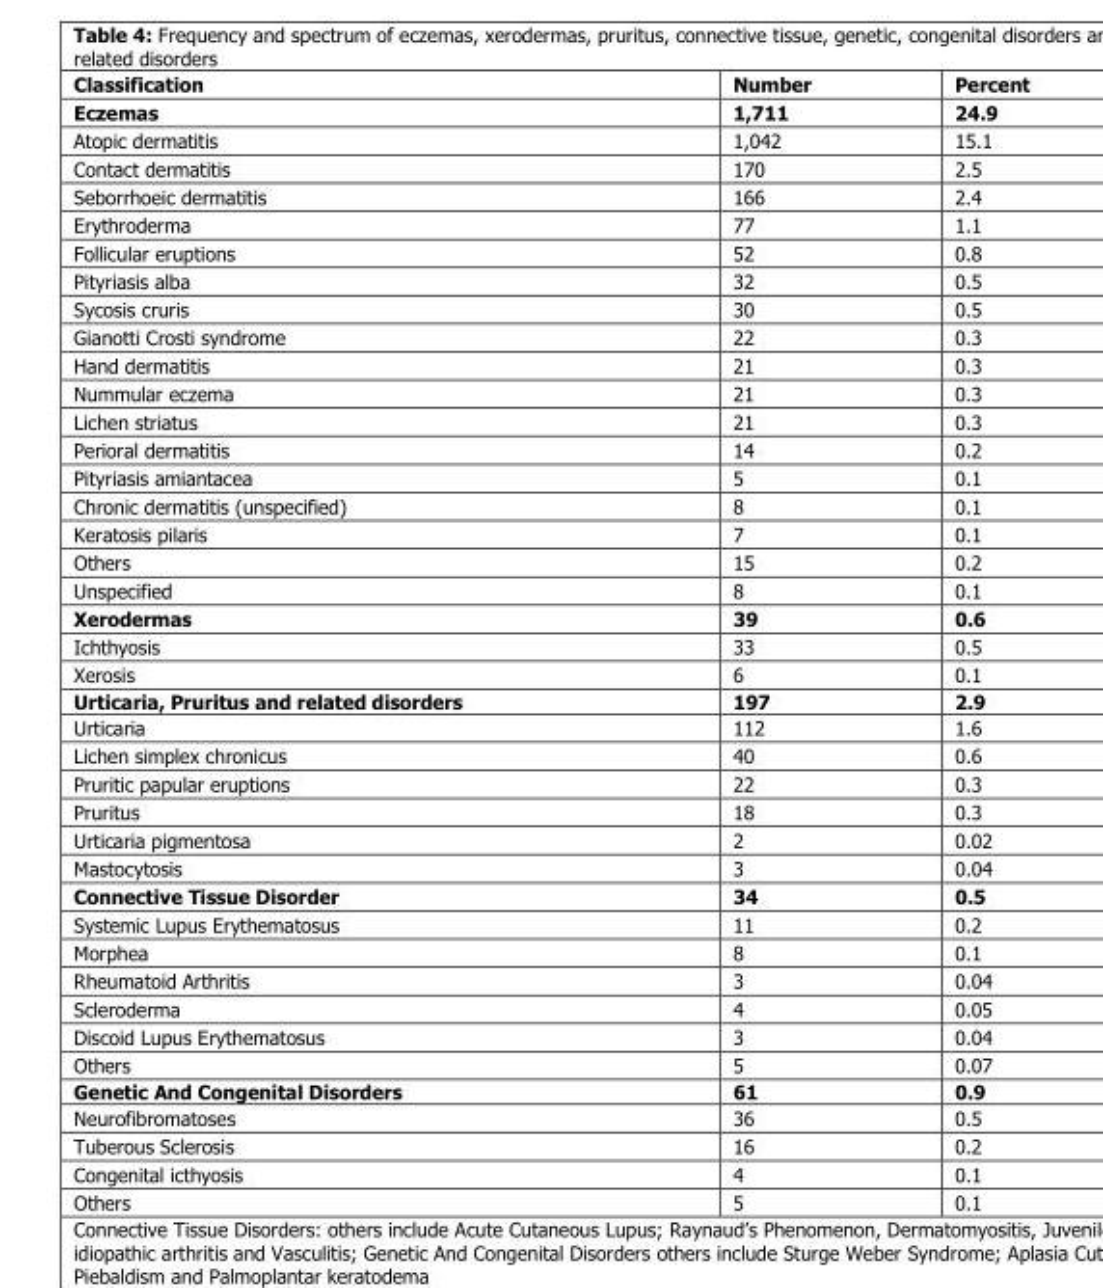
<table><thead><tr><td>Classification</td><td>Number</td><td>Percent</td></tr></thead><tbody><tr><td>Eczemas</td><td>1,711</td><td>24.9</td></tr><tr><td>Atopic dermatitis</td><td>1,042</td><td>15.1</td></tr><tr><td>Contact dermatitis</td><td>170</td><td>2.5</td></tr><tr><td>Seborrhoeic dermatitis</td><td>166</td><td>2.4</td></tr><tr><td>Erythroderma</td><td>77</td><td>1.1</td></tr><tr><td>Follicular eruptions</td><td>52</td><td>0.8</td></tr><tr><td>Pityriasis alba</td><td>32</td><td>0.5</td></tr><tr><td>Sycosis cruris</td><td>30</td><td>0.5</td></tr><tr><td>Gianotti Crosti syndrome</td><td>22</td><td>0.3</td></tr><tr><td>Hand dermatitis</td><td>21</td><td>0.3</td></tr><tr><td>Nummular eczema</td><td>21</td><td>0.3</td></tr><tr><td>Lichen striatus</td><td>21</td><td>0.3</td></tr><tr><td>Perioral dermatitis</td><td>14</td><td>0.2</td></tr><tr><td>Pityriasis amiantacea</td><td>5</td><td>0.1</td></tr><tr><td>Chronic dermatitis (unspecified)</td><td>8</td><td>0.1</td></tr><tr><td>Keratosis pilaris</td><td>7</td><td>0.1</td></tr><tr><td>Others</td><td>15</td><td>0.2</td></tr><tr><td>Unspecified</td><td>8</td><td>0.1</td></tr><tr><td>Xerodermas</td><td>39</td><td>0.6</td></tr><tr><td>Ichthyosis</td><td>33</td><td>0.5</td></tr><tr><td>Xerosis</td><td>6</td><td>0.1</td></tr><tr><td>Urticaria, Pruritus and related disorders</td><td>197</td><td>2.9</td></tr><tr><td>Urticaria</td><td>112</td><td>1.6</td></tr><tr><td>Lichen simplex chronicus</td><td>40</td><td>0.6</td></tr><tr><td>Pruritic papular eruptions</td><td>22</td><td>0.3</td></tr><tr><td>Pruritus</td><td>18</td><td>0.3</td></tr><tr><td>Urticaria pigmentosa</td><td>2</td><td>0.02</td></tr><tr><td>Mastocytosis</td><td>3</td><td>0.04</td></tr><tr><td>Connective Tissue Disorder</td><td>34</td><td>0.5</td></tr><tr><td>Systemic Lupus Erythematosus</td><td>11</td><td>0.2</td></tr><tr><td>Morphea</td><td>8</td><td>0.1</td></tr><tr><td>Rheumatoid Arthritis</td><td>3</td><td>0.04</td></tr><tr><td>Scleroderma</td><td>4</td><td>0.05</td></tr><tr><td>Discoid Lupus Erythematosus</td><td>3</td><td>0.04</td></tr><tr><td>Others</td><td>5</td><td>0.07</td></tr><tr><td>Genetic And Congenital Disorders</td><td>61</td><td>0.9</td></tr><tr><td>Neurofibromatoses</td><td>36</td><td>0.5</td></tr><tr><td>Tuberous Sclerosis</td><td>16</td><td>0.2</td></tr><tr><td>Congenital icthyosis</td><td>4</td><td>0.1</td></tr><tr><td>Others</td><td>5</td><td>0.1</td></tr></tbody></table>